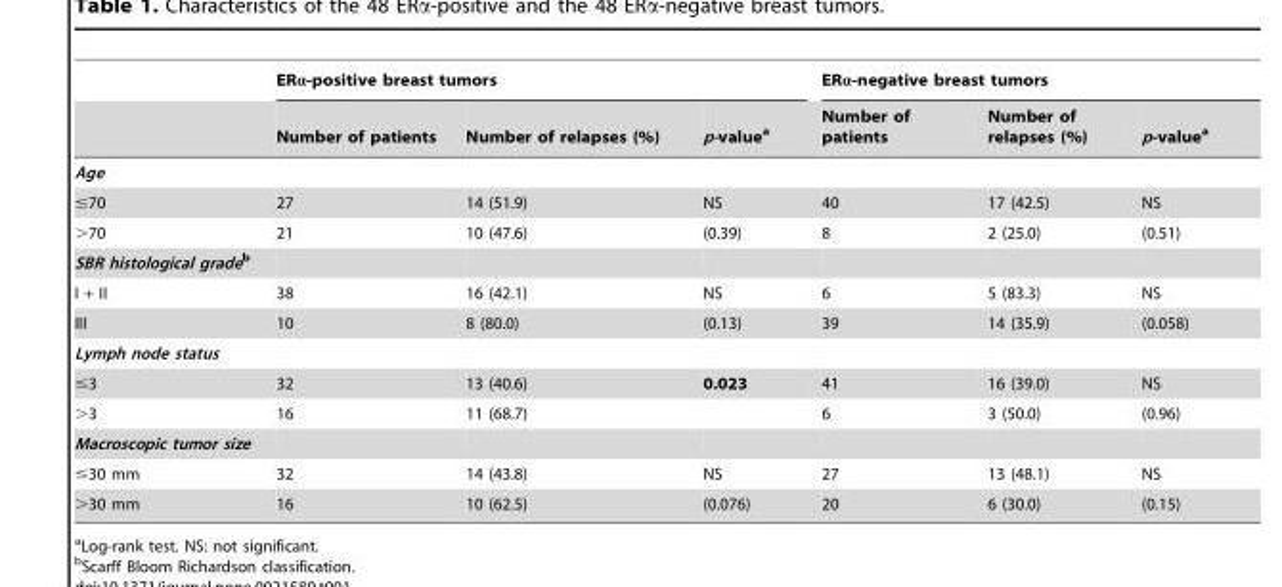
<table><thead><tr><td rowspan="2"></td><td colspan="3">ERα-positive breast tumors</td><td colspan="3">ERα-negative breast tumors</td></tr><tr><td>Number of patients</td><td>Number of relapses (%)</td><td>p-value<sup>a</sup></td><td>Number of patients</td><td>Number of relapses (%)</td><td>p-value<sup>a</sup></td></tr></thead><tbody><tr><td colspan="7">Age</td></tr><tr><td>≤70</td><td>27</td><td>14 (51.9)</td><td>NS</td><td>40</td><td>17 (42.5)</td><td>NS</td></tr><tr><td>&gt;70</td><td>21</td><td>10 (47.6)</td><td>(0.39)</td><td>8</td><td>2 (25.0)</td><td>(0.51)</td></tr><tr><td colspan="7">SBR histological gradeb</td></tr><tr><td>I + II</td><td>38</td><td>16 (42.1)</td><td>NS</td><td>6</td><td>5 (83.3)</td><td>NS</td></tr><tr><td>III</td><td>10</td><td>8 (80.0)</td><td>(0.13)</td><td>39</td><td>14 (35.9)</td><td>(0.058)</td></tr><tr><td colspan="7">Lymph node status</td></tr><tr><td>≤3</td><td>32</td><td>13 (40.6)</td><td>0.023</td><td>41</td><td>16 (39.0)</td><td>NS</td></tr><tr><td>&gt;3</td><td>16</td><td>11 (68.7)</td><td></td><td>6</td><td>3 (50.0)</td><td>(0.96)</td></tr><tr><td colspan="7">Macroscopic tumor size</td></tr><tr><td>≤30 mm</td><td>32</td><td>14 (43.8)</td><td>NS</td><td>27</td><td>13 (48.1)</td><td>NS</td></tr><tr><td>&gt;30 mm</td><td>16</td><td>10 (62.5)</td><td>(0.076)</td><td>20</td><td>6 (30.0)</td><td>(0.15)</td></tr></tbody></table>